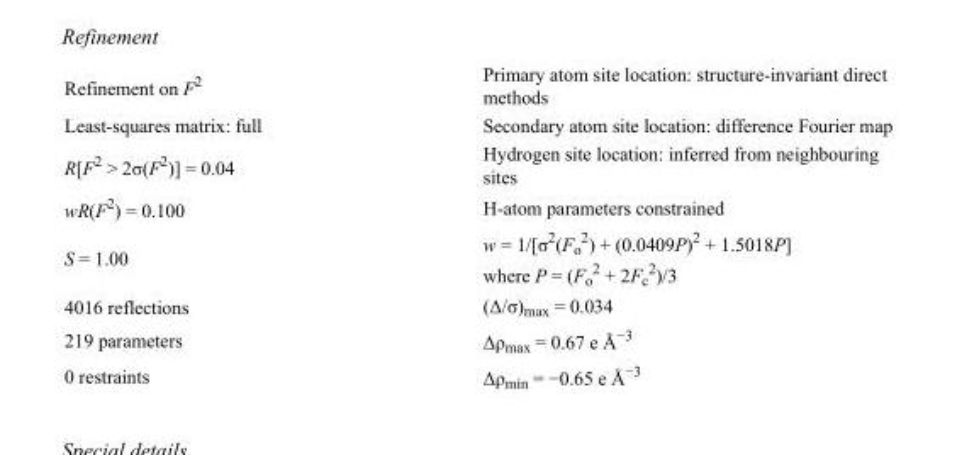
<table><tbody><tr><td>Refinement on F<sup>2</sup></td><td>Primary atom site location: structure-invariant direct methods</td></tr><tr><td>Least-squares matrix: full</td><td>Secondary atom site location: difference Fourier map</td></tr><tr><td>R[F<sup>2</sup> &gt; 2σ(F<sup>2</sup>)] = 0.04</td><td>Hydrogen site location: inferred from neighbouring sites</td></tr><tr><td>wR(F<sup>2</sup>) = 0.100</td><td>H-atom parameters constrained</td></tr><tr><td>S = 1.00</td><td>w = 1/[σ<sup>2</sup>(F<sub>o</sub> <sup>2</sup>) + (0.0409P)<sup>2</sup> + 1.5018P] where P = (F<sub>o</sub> <sup>2</sup> + 2F<sub>c</sub> <sup>2</sup>)/3</td></tr><tr><td>4016 reflections</td><td>(Δ/σ)<sub>max</sub> = 0.034</td></tr><tr><td>219 parameters</td><td>Δρ<sub>max</sub> = 0.67 e Å<sup>−3</sup></td></tr><tr><td>0 restraints</td><td>Δρ<sub>min</sub> = −0.65 e Å<sup>−3</sup></td></tr></tbody></table>